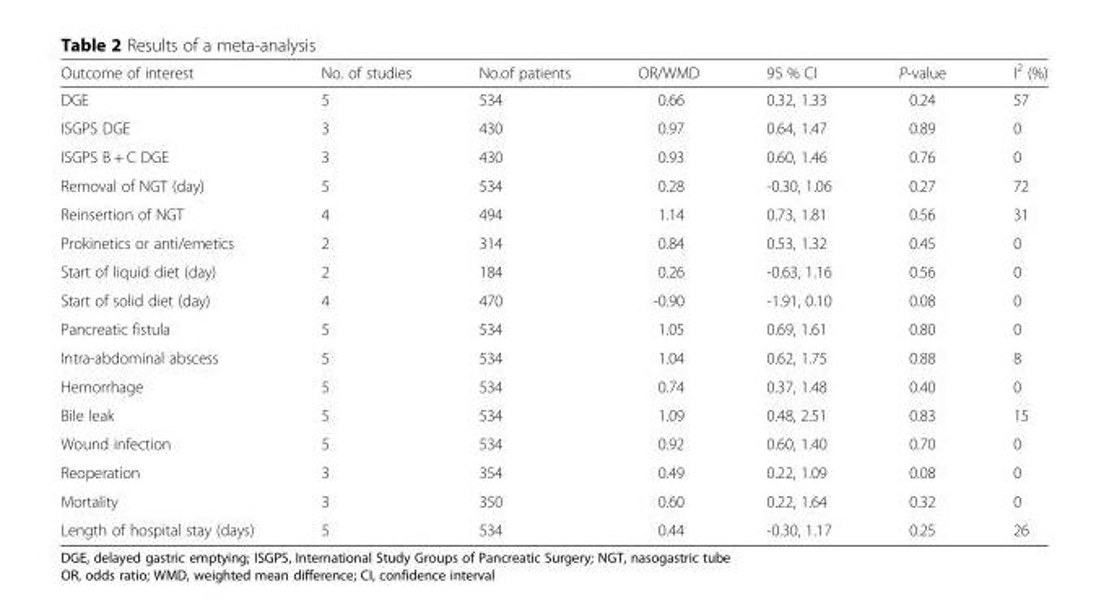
<table><thead><tr><td>Outcome of interest</td><td>No. of studies</td><td>No.of patients</td><td>OR/WMD</td><td>95 % CI</td><td>P-value</td><td>I<sup>2</sup> (%)</td></tr></thead><tbody><tr><td>DGE</td><td>5</td><td>534</td><td>0.66</td><td>0.32, 1.33</td><td>0.24</td><td>57</td></tr><tr><td>ISGPS DGE</td><td>3</td><td>430</td><td>0.97</td><td>0.64, 1.47</td><td>0.89</td><td>0</td></tr><tr><td>ISGPS B + C DGE</td><td>3</td><td>430</td><td>0.93</td><td>0.60, 1.46</td><td>0.76</td><td>0</td></tr><tr><td>Removal of NGT (day)</td><td>5</td><td>534</td><td>0.28</td><td>-0.30, 1.06</td><td>0.27</td><td>72</td></tr><tr><td>Reinsertion of NGT</td><td>4</td><td>494</td><td>1.14</td><td>0.73, 1.81</td><td>0.56</td><td>31</td></tr><tr><td>Prokinetics or anti/emetics</td><td>2</td><td>314</td><td>0.84</td><td>0.53, 1.32</td><td>0.45</td><td>0</td></tr><tr><td>Start of liquid diet (day)</td><td>2</td><td>184</td><td>0.26</td><td>-0.63, 1.16</td><td>0.56</td><td>0</td></tr><tr><td>Start of solid diet (day)</td><td>4</td><td>470</td><td>-0.90</td><td>-1.91, 0.10</td><td>0.08</td><td>0</td></tr><tr><td>Pancreatic fistula</td><td>5</td><td>534</td><td>1.05</td><td>0.69, 1.61</td><td>0.80</td><td>0</td></tr><tr><td>Intra-abdominal abscess</td><td>5</td><td>534</td><td>1.04</td><td>0.62, 1.75</td><td>0.88</td><td>8</td></tr><tr><td>Hemorrhage</td><td>5</td><td>534</td><td>0.74</td><td>0.37, 1.48</td><td>0.40</td><td>0</td></tr><tr><td>Bile leak</td><td>5</td><td>534</td><td>1.09</td><td>0.48, 2.51</td><td>0.83</td><td>15</td></tr><tr><td>Wound infection</td><td>5</td><td>534</td><td>0.92</td><td>0.60, 1.40</td><td>0.70</td><td>0</td></tr><tr><td>Reoperation</td><td>3</td><td>354</td><td>0.49</td><td>0.22, 1.09</td><td>0.08</td><td>0</td></tr><tr><td>Mortality</td><td>3</td><td>350</td><td>0.60</td><td>0.22, 1.64</td><td>0.32</td><td>0</td></tr><tr><td>Length of hospital stay (days)</td><td>5</td><td>534</td><td>0.44</td><td>-0.30, 1.17</td><td>0.25</td><td>26</td></tr></tbody></table>